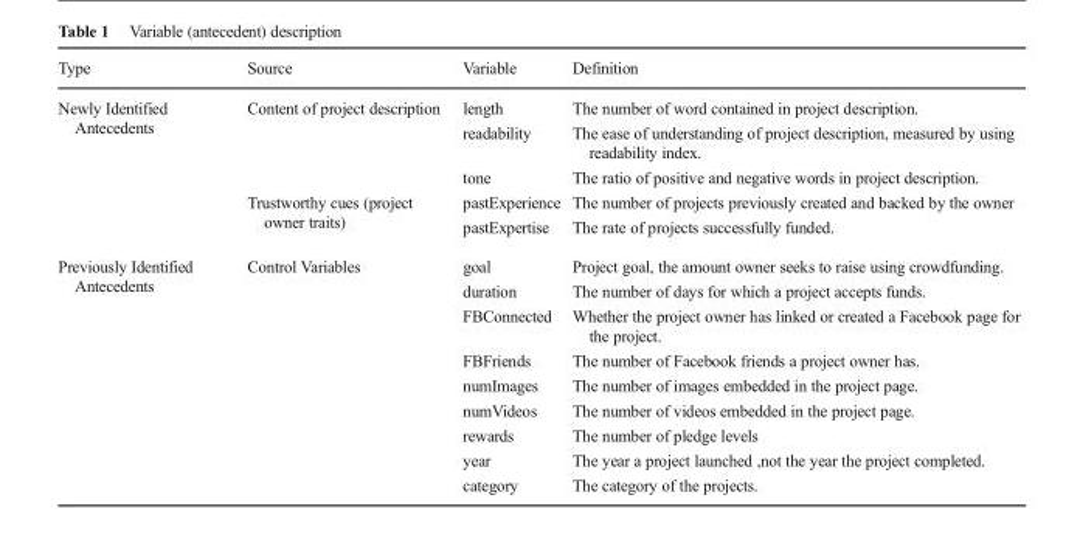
<table><thead><tr><td>Type</td><td>Source</td><td>Variable</td><td>Definition</td></tr></thead><tbody><tr><td rowspan="5">Newly Identified Antecedents</td><td rowspan="3">Content of project description</td><td>length</td><td>The number of word contained in project description.</td></tr><tr><td>readability</td><td>The ease of understanding of project description, measured by using readability index.</td></tr><tr><td>tone</td><td>The ratio of positive and negative words in project description.</td></tr><tr><td rowspan="2">Trustworthy cues (project owner traits)</td><td>pastExperience</td><td>The number of projects previously created and backed by the owner</td></tr><tr><td>pastExpertise</td><td>The rate of projects successfully funded.</td></tr><tr><td rowspan="9">Previously Identified Antecedents</td><td rowspan="9">Control Variables</td><td>goal</td><td>Project goal, the amount owner seeks to raise using crowdfunding.</td></tr><tr><td>duration</td><td>The number of days for which a project accepts funds.</td></tr><tr><td>FBConnected</td><td>Whether the project owner has linked or created a Facebook page for the project.</td></tr><tr><td>FBFriends</td><td>The number of Facebook friends a project owner has.</td></tr><tr><td>numImages</td><td>The number of images embedded in the project page.</td></tr><tr><td>numVideos</td><td>The number of videos embedded in the project page.</td></tr><tr><td>rewards</td><td>The number of pledge levels</td></tr><tr><td>year</td><td>The year a project launched ,not the year the project completed.</td></tr><tr><td>category</td><td>The category of the projects.</td></tr></tbody></table>